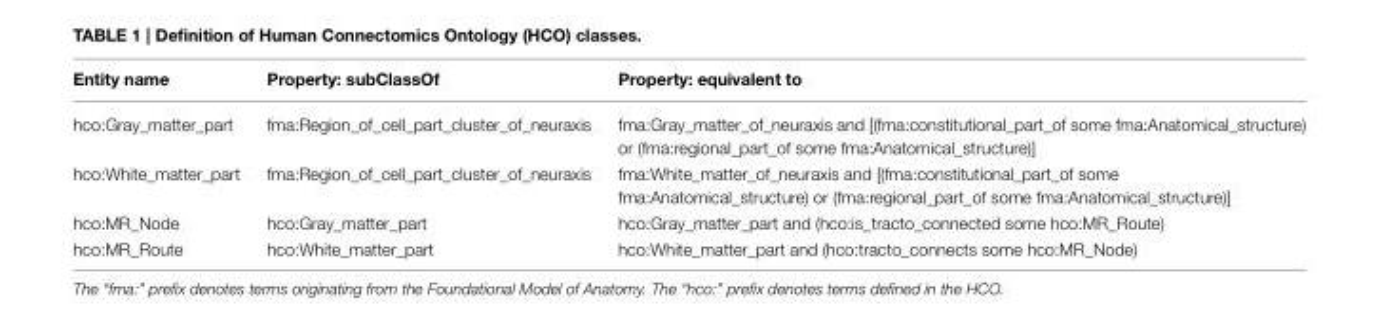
<table><thead><tr><td>Entity name</td><td>Property: subClassOf</td><td>Property: equivalent to</td></tr></thead><tbody><tr><td>hco:Gray_matter_part</td><td>fma:Region_of_cell_part_cluster_of_neuraxis</td><td>fma:Gray_matter_of_neuraxis and [(fma:constitutional_part_of some fma:Anatomical_structure) or (fma:regional_part_of some fma:Anatomical_structure)]</td></tr><tr><td>hco:White_matter_part</td><td>fma:Region_of_cell_part_cluster_of_neuraxis</td><td>fma:White_matter_of_neuraxis and [(fma:constitutional_part_of some fma:Anatomical_structure) or (fma:regional_part_of some fma:Anatomical_structure)]</td></tr><tr><td>hco:MR_Node</td><td>hco:Gray_matter_part</td><td>hco:Gray_matter_part and (hco:is_tracto_connected some hco:MR_Route)</td></tr><tr><td>hco:MR_Route</td><td>hco:White_matter_part</td><td>hco:White_matter_part and (hco:tracto_connects some hco:MR_Node)</td></tr></tbody></table>